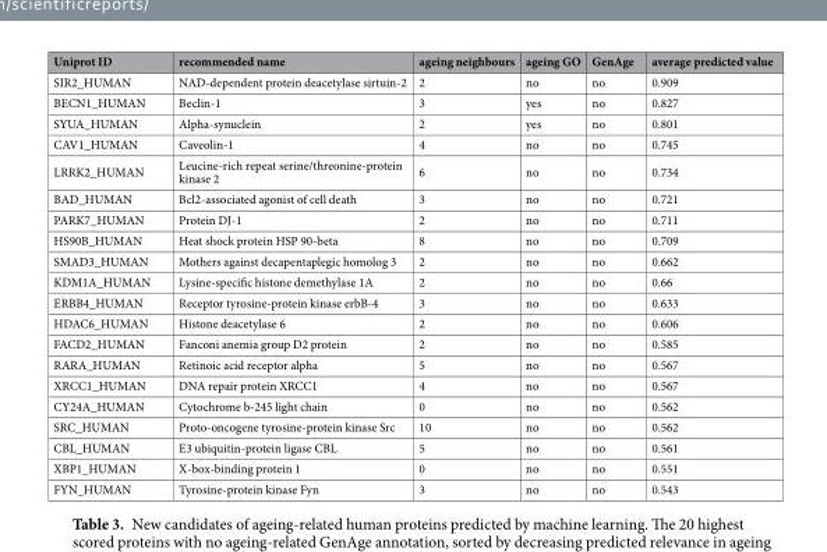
<table><thead><tr><td>Uniprot ID</td><td>recommended name</td><td>ageing neighbours</td><td>ageing GO</td><td>GenAge</td><td>average predicted value</td></tr></thead><tbody><tr><td>SIR2_HUMAN</td><td>NAD-dependent protein deacetylase sirtuin-2</td><td>2</td><td>no</td><td>no</td><td>0.909</td></tr><tr><td>BECN1_HUMAN</td><td>Beclin-1</td><td>3</td><td>yes</td><td>no</td><td>0.827</td></tr><tr><td>SYUA_HUMAN</td><td>Alpha-synuclein</td><td>2</td><td>yes</td><td>no</td><td>0.801</td></tr><tr><td>CAV1_HUMAN</td><td>Caveolin-1</td><td>4</td><td>no</td><td>no</td><td>0.745</td></tr><tr><td>LRRK2_HUMAN</td><td>Leucine-rich repeat serine/threonine-protein kinase 2</td><td>6</td><td>no</td><td>no</td><td>0.734</td></tr><tr><td>BAD_HUMAN</td><td>Bcl2-associated agonist of cell death</td><td>3</td><td>no</td><td>no</td><td>0.721</td></tr><tr><td>PARK7_HUMAN</td><td>Protein DJ-1</td><td>2</td><td>no</td><td>no</td><td>0.711</td></tr><tr><td>HS90B_HUMAN</td><td>Heat shock protein HSP 90-beta</td><td>8</td><td>no</td><td>no</td><td>0.709</td></tr><tr><td>SMAD3_HUMAN</td><td>Mothers against decapentaplegic homolog 3</td><td>2</td><td>no</td><td>no</td><td>0.662</td></tr><tr><td>KDM1A_HUMAN</td><td>Lysine-specific histone demethylase 1A</td><td>2</td><td>no</td><td>no</td><td>0.66</td></tr><tr><td>ERBB4_HUMAN</td><td>Receptor tyrosine-protein kinase erbB-4</td><td>3</td><td>no</td><td>no</td><td>0.633</td></tr><tr><td>HDAC6_HUMAN</td><td>Histone deacetylase 6</td><td>2</td><td>no</td><td>no</td><td>0.606</td></tr><tr><td>FACD2_HUMAN</td><td>Fanconi anemia group D2 protein</td><td>2</td><td>no</td><td>no</td><td>0.585</td></tr><tr><td>RARA_HUMAN</td><td>Retinoic acid receptor alpha</td><td>5</td><td>no</td><td>no</td><td>0.567</td></tr><tr><td>XRCC1_HUMAN</td><td>DNA repair protein XRCC1</td><td>4</td><td>no</td><td>no</td><td>0.567</td></tr><tr><td>CY24A_HUMAN</td><td>Cytochrome b-245 light chain</td><td>0</td><td>no</td><td>no</td><td>0.562</td></tr><tr><td>SRC_HUMAN</td><td>Proto-oncogene tyrosine-protein kinase Src</td><td>10</td><td>no</td><td>no</td><td>0.562</td></tr><tr><td>CBL_HUMAN</td><td>E3 ubiquitin-protein ligase CBL</td><td>5</td><td>no</td><td>no</td><td>0.561</td></tr><tr><td>XBP1_HUMAN</td><td>X-box-binding protein 1</td><td>0</td><td>no</td><td>no</td><td>0.551</td></tr><tr><td>FYN_HUMAN</td><td>Tyrosine-protein kinase Fyn</td><td>3</td><td>no</td><td>no</td><td>0.543</td></tr></tbody></table>